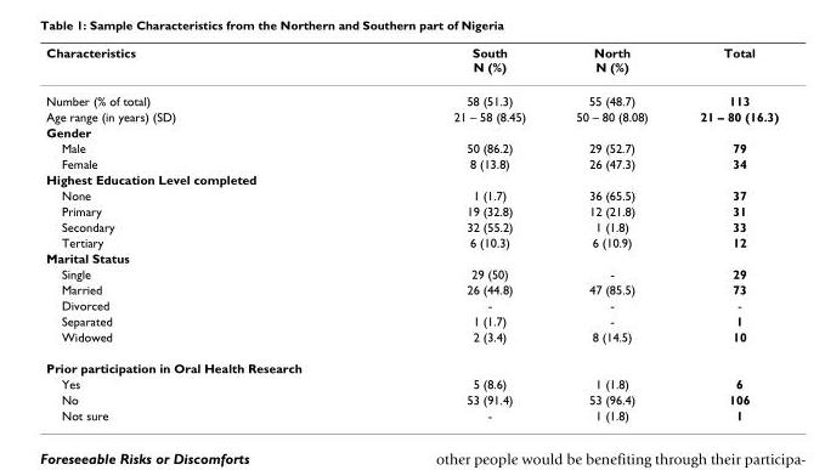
<table><thead><tr><td>Characteristics</td><td>South N (%)</td><td>North N (%)</td><td>Total</td></tr></thead><tbody><tr><td>Number (% of total)</td><td>58 (51.3)</td><td>55 (48.7)</td><td>113</td></tr><tr><td>Age range (in years) (SD)</td><td>21 – 58 (8.45)</td><td>50 – 80 (8.08)</td><td>21 – 80 (16.3)</td></tr><tr><td colspan="4">Gender</td></tr><tr><td>Male</td><td>50 (86.2)</td><td>29 (52.7)</td><td>79</td></tr><tr><td>Female</td><td>8 (13.8)</td><td>26 (47.3)</td><td>34</td></tr><tr><td colspan="4">Highest Education Level completed</td></tr><tr><td>None</td><td>1 (1.7)</td><td>36 (65.5)</td><td>37</td></tr><tr><td>Primary</td><td>19 (32.8)</td><td>12 (21.8)</td><td>31</td></tr><tr><td>Secondary</td><td>32 (55.2)</td><td>1 (1.8)</td><td>33</td></tr><tr><td>Tertiary</td><td>6 (10.3)</td><td>6 (10.9)</td><td>12</td></tr><tr><td colspan="4">Marital Status</td></tr><tr><td>Single</td><td>29 (50)</td><td>-</td><td>29</td></tr><tr><td>Married</td><td>26 (44.8)</td><td>47 (85.5)</td><td>73</td></tr><tr><td>Divorced</td><td>-</td><td>-</td><td>-</td></tr><tr><td>Separated</td><td>1 (1.7)</td><td>-</td><td>1</td></tr><tr><td>Widowed</td><td>2 (3.4)</td><td>8 (14.5)</td><td>10</td></tr><tr><td colspan="4">Prior participation in Oral Health Research</td></tr><tr><td>Yes</td><td>5 (8.6)</td><td>1 (1.8)</td><td>6</td></tr><tr><td>No</td><td>53 (91.4)</td><td>53 (96.4)</td><td>106</td></tr><tr><td>Not sure</td><td>-</td><td>1 (1.8)</td><td>1</td></tr></tbody></table>